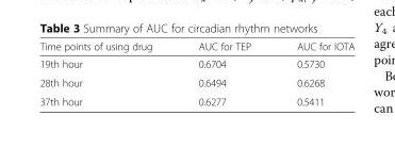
<table><thead><tr><td>Time points of using drug</td><td>AUC for TEP</td><td>AUC for IOTA</td></tr></thead><tbody><tr><td>19th hour</td><td>0.6704</td><td>0.5730</td></tr><tr><td>28th hour</td><td>0.6494</td><td>0.6268</td></tr><tr><td>37th hour</td><td>0.6277</td><td>0.5411</td></tr></tbody></table>